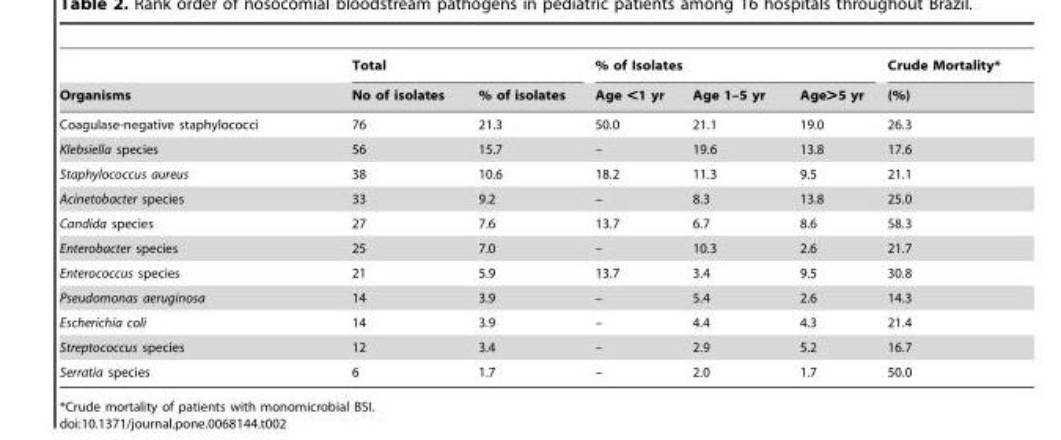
<table><thead><tr><td rowspan="2">Organisms</td><td colspan="2">Total</td><td colspan="3">% of Isolates</td><td rowspan="2">Crude Mortality* (%)</td></tr><tr><td>No of isolates</td><td>% of isolates</td><td>Age &lt;1 yr</td><td>Age 1–5 yr</td><td>Age&gt;5 yr</td></tr></thead><tbody><tr><td>Coagulase-negative staphylococci</td><td>76</td><td>21.3</td><td>50.0</td><td>21.1</td><td>19.0</td><td>26.3</td></tr><tr><td>Klebsiella species</td><td>56</td><td>15.7</td><td>–</td><td>19.6</td><td>13.8</td><td>17.6</td></tr><tr><td>Staphylococcus aureus</td><td>38</td><td>10.6</td><td>18.2</td><td>11.3</td><td>9.5</td><td>21.1</td></tr><tr><td>Acinetobacter species</td><td>33</td><td>9.2</td><td>–</td><td>8.3</td><td>13.8</td><td>25.0</td></tr><tr><td>Candida species</td><td>27</td><td>7.6</td><td>13.7</td><td>6.7</td><td>8.6</td><td>58.3</td></tr><tr><td>Enterobacter species</td><td>25</td><td>7.0</td><td>–</td><td>10.3</td><td>2.6</td><td>21.7</td></tr><tr><td>Enterococcus species</td><td>21</td><td>5.9</td><td>13.7</td><td>3.4</td><td>9.5</td><td>30.8</td></tr><tr><td>Pseudomonas aeruginosa</td><td>14</td><td>3.9</td><td>–</td><td>5.4</td><td>2.6</td><td>14.3</td></tr><tr><td>Escherichia coli</td><td>14</td><td>3.9</td><td>–</td><td>4.4</td><td>4.3</td><td>21.4</td></tr><tr><td>Streptococcus species</td><td>12</td><td>3.4</td><td>–</td><td>2.9</td><td>5.2</td><td>16.7</td></tr><tr><td>Serratia species</td><td>6</td><td>1.7</td><td>–</td><td>2.0</td><td>1.7</td><td>50.0</td></tr></tbody></table>